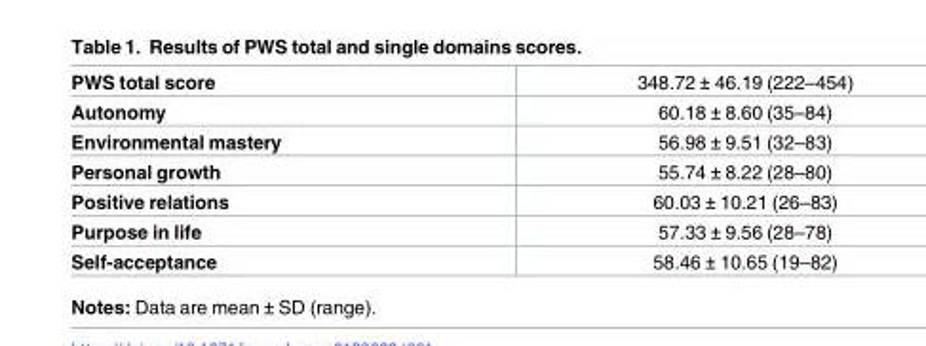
<table><tbody><tr><td>PWS total score</td><td>348.72 ± 46.19 (222–454)</td></tr><tr><td>Autonomy</td><td>60.18 ± 8.60 (35–84)</td></tr><tr><td>Environmental mastery</td><td>56.98 ± 9.51 (32–83)</td></tr><tr><td>Personal growth</td><td>55.74 ± 8.22 (28–80)</td></tr><tr><td>Positive relations</td><td>60.03 ± 10.21 (26–83)</td></tr><tr><td>Purpose in life</td><td>57.33 ± 9.56 (28–78)</td></tr><tr><td>Self-acceptance</td><td>58.46 ± 10.65 (19–82)</td></tr></tbody></table>